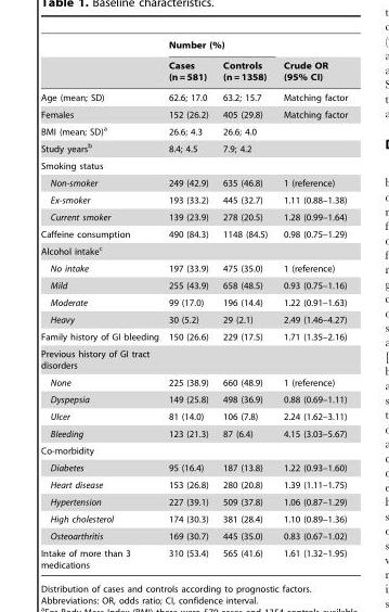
<table><thead><tr><td rowspan="2"></td><td colspan="2">Number (%)</td><td rowspan="2">Crude OR (95% CI)</td></tr><tr><td>Cases (n = 581)</td><td>Controls (n = 1358)</td></tr></thead><tbody><tr><td>Age (mean; SD)</td><td>62.6; 17.0</td><td>63.2; 15.7</td><td>Matching factor</td></tr><tr><td>Females</td><td>152 (26.2)</td><td>405 (29.8)</td><td>Matching factor</td></tr><tr><td>BMI (mean; SD)<sup>a</sup></td><td>26.6; 4.3</td><td>26.6; 4.0</td><td></td></tr><tr><td>Study years<sup>b</sup></td><td>8.4; 4.5</td><td>7.9; 4.2</td><td></td></tr><tr><td colspan="4">Smoking status</td></tr><tr><td>Non-smoker</td><td>249 (42.9)</td><td>635 (46.8)</td><td>1 (reference)</td></tr><tr><td>Ex-smoker</td><td>193 (33.2)</td><td>445 (32.7)</td><td>1.11 (0.88–1.38)</td></tr><tr><td>Current smoker</td><td>139 (23.9)</td><td>278 (20.5)</td><td>1.28 (0.99–1.64)</td></tr><tr><td>Caffeine consumption</td><td>490 (84.3)</td><td>1148 (84.5)</td><td>0.98 (0.75–1.29)</td></tr><tr><td colspan="4">Alcohol intake<sup>c</sup></td></tr><tr><td>No intake</td><td>197 (33.9)</td><td>475 (35.0)</td><td>1 (reference)</td></tr><tr><td>Mild</td><td>255 (43.9)</td><td>658 (48.5)</td><td>0.93 (0.75–1.16)</td></tr><tr><td>Moderate</td><td>99 (17.0)</td><td>196 (14.4)</td><td>1.22 (0.91–1.63)</td></tr><tr><td>Heavy</td><td>30 (5.2)</td><td>29 (2.1)</td><td>2.49 (1.46–4.27)</td></tr><tr><td>Family history of GI bleeding</td><td>150 (26.6)</td><td>229 (17.5)</td><td>1.71 (1.35–2.16)</td></tr><tr><td colspan="4">Previous history of GI tract disorders</td></tr><tr><td>None</td><td>225 (38.9)</td><td>660 (48.9)</td><td>1 (reference)</td></tr><tr><td>Dyspepsia</td><td>149 (25.8)</td><td>498 (36.9)</td><td>0.88 (0.69–1.11)</td></tr><tr><td>Ulcer</td><td>81 (14.0)</td><td>106 (7.8)</td><td>2.24 (1.62–3.11)</td></tr><tr><td>Bleeding</td><td>123 (21.3)</td><td>87 (6.4)</td><td>4.15 (3.03–5.67)</td></tr><tr><td colspan="4">Co-morbidity</td></tr><tr><td>Diabetes</td><td>95 (16.4)</td><td>187 (13.8)</td><td>1.22 (0.93–1.60)</td></tr><tr><td>Heart disease</td><td>153 (26.8)</td><td>280 (20.8)</td><td>1.39 (1.11–1.75)</td></tr><tr><td>Hypertension</td><td>227 (39.1)</td><td>509 (37.8)</td><td>1.06 (0.87–1.29)</td></tr><tr><td>High cholesterol</td><td>174 (30.3)</td><td>381 (28.4)</td><td>1.10 (0.89–1.36)</td></tr><tr><td>Osteoarthritis</td><td>169 (30.7)</td><td>445 (35.0)</td><td>0.83 (0.67–1.02)</td></tr><tr><td>Intake of more than 3 medications</td><td>310 (53.4)</td><td>565 (41.6)</td><td>1.61 (1.32–1.95)</td></tr></tbody></table>